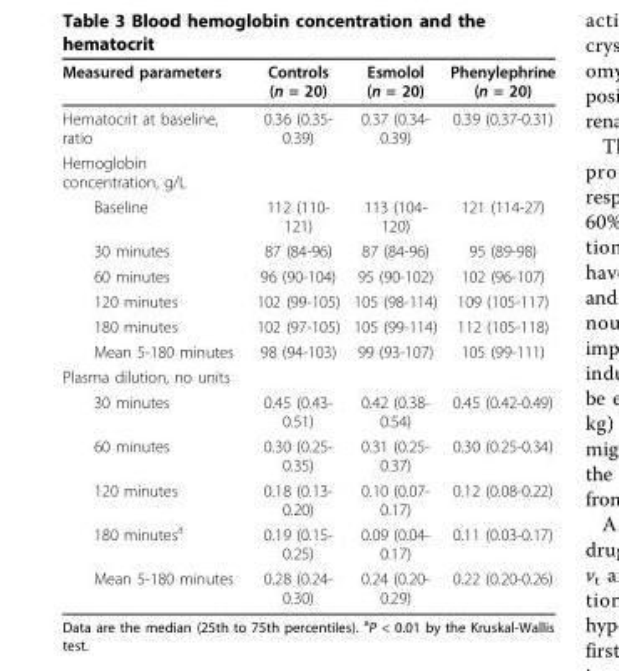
<table><thead><tr><td>Measured parameters</td><td>Controls (n = 20)</td><td>Esmolol (n = 20)</td><td>Phenylephrine (n = 20)</td></tr></thead><tbody><tr><td>Hematocrit at baseline, ratio</td><td>0.36 (0.35- 0.39)</td><td>0.37 (0.34- 0.39)</td><td>0.39 (0.37-0.31)</td></tr><tr><td colspan="4">Hemoglobin concentration, g/L</td></tr><tr><td>Baseline</td><td>112 (110- 121)</td><td>113 (104- 120)</td><td>121 (114-27)</td></tr><tr><td>30 minutes</td><td>87 (84-96)</td><td>87 (84-96)</td><td>95 (89-98)</td></tr><tr><td>60 minutes</td><td>96 (90-104)</td><td>95 (90-102)</td><td>102 (96-107)</td></tr><tr><td>120 minutes</td><td>102 (99-105)</td><td>105 (98-114)</td><td>109 (105-117)</td></tr><tr><td>180 minutes</td><td>102 (97-105)</td><td>105 (99-114)</td><td>112 (105-118)</td></tr><tr><td>Mean 5-180 minutes</td><td>98 (94-103)</td><td>99 (93-107)</td><td>105 (99-111)</td></tr><tr><td colspan="4">Plasma dilution, no units</td></tr><tr><td>30 minutes</td><td>0.45 (0.43- 0.51)</td><td>0.42 (0.38- 0.54)</td><td>0.45 (0.42-0.49)</td></tr><tr><td>60 minutes</td><td>0.30 (0.25- 0.35)</td><td>0.31 (0.25- 0.37)</td><td>0.30 (0.25-0.34)</td></tr><tr><td>120 minutes</td><td>0.18 (0.13- 0.20)</td><td>0.10 (0.07- 0.17)</td><td>0.12 (0.08-0.22)</td></tr><tr><td>180 minutes<sup>a</sup></td><td>0.19 (0.15- 0.25)</td><td>0.09 (0.04- 0.17)</td><td>0.11 (0.03-0.17)</td></tr><tr><td>Mean 5-180 minutes</td><td>0.28 (0.24- 0.30)</td><td>0.24 (0.20- 0.29)</td><td>0.22 (0.20-0.26)</td></tr></tbody></table>